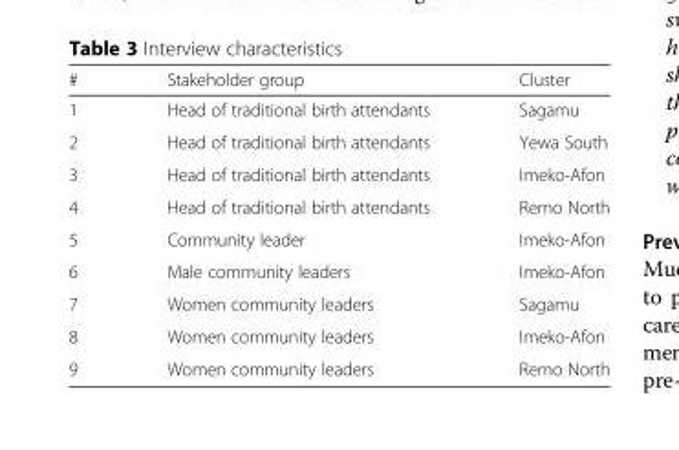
<table><thead><tr><td>#</td><td>Stakeholder group</td><td>Cluster</td></tr></thead><tbody><tr><td>1</td><td>Head of traditional birth attendants</td><td>Sagamu</td></tr><tr><td>2</td><td>Head of traditional birth attendants</td><td>Yewa South</td></tr><tr><td>3</td><td>Head of traditional birth attendants</td><td>Imeko-Afon</td></tr><tr><td>4</td><td>Head of traditional birth attendants</td><td>Remo North</td></tr><tr><td>5</td><td>Community leader</td><td>Imeko-Afon</td></tr><tr><td>6</td><td>Male community leaders</td><td>Imeko-Afon</td></tr><tr><td>7</td><td>Women community leaders</td><td>Sagamu</td></tr><tr><td>8</td><td>Women community leaders</td><td>Imeko-Afon</td></tr><tr><td>9</td><td>Women community leaders</td><td>Remo North</td></tr></tbody></table>